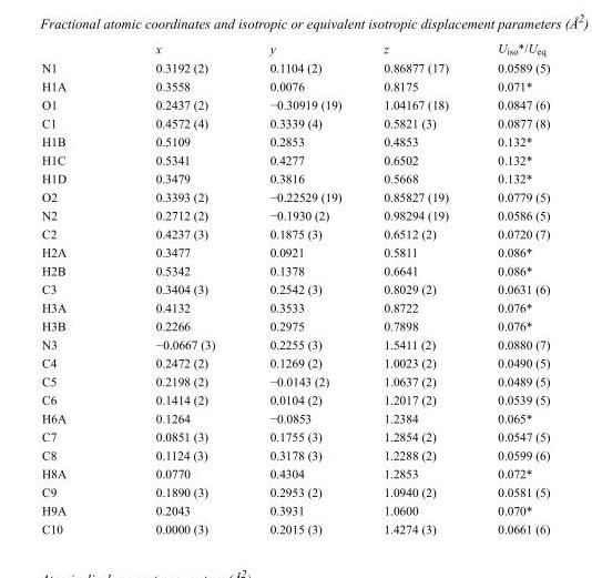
<table><thead><tr><td></td><td>x</td><td>y</td><td>z</td><td>U<sub>iso</sub>*/U<sub>eq</sub></td></tr></thead><tbody><tr><td>N1</td><td>0.3192 (2)</td><td>0.1104 (2)</td><td>0.86877 (17)</td><td>0.0589 (5)</td></tr><tr><td>H1A</td><td>0.3558</td><td>0.0076</td><td>0.8175</td><td>0.071*</td></tr><tr><td>O1</td><td>0.2437 (2)</td><td>−0.30919 (19)</td><td>1.04167 (18)</td><td>0.0847 (6)</td></tr><tr><td>C1</td><td>0.4572 (4)</td><td>0.3339 (4)</td><td>0.5821 (3)</td><td>0.0877 (8)</td></tr><tr><td>H1B</td><td>0.5109</td><td>0.2853</td><td>0.4853</td><td>0.132*</td></tr><tr><td>H1C</td><td>0.5341</td><td>0.4277</td><td>0.6502</td><td>0.132*</td></tr><tr><td>H1D</td><td>0.3479</td><td>0.3816</td><td>0.5668</td><td>0.132*</td></tr><tr><td>O2</td><td>0.3393 (2)</td><td>−0.22529 (19)</td><td>0.85827 (19)</td><td>0.0779 (5)</td></tr><tr><td>N2</td><td>0.2712 (2)</td><td>−0.1930 (2)</td><td>0.98294 (19)</td><td>0.0586 (5)</td></tr><tr><td>C2</td><td>0.4237 (3)</td><td>0.1875 (3)</td><td>0.6512 (2)</td><td>0.0720 (7)</td></tr><tr><td>H2A</td><td>0.3477</td><td>0.0921</td><td>0.5811</td><td>0.086*</td></tr><tr><td>H2B</td><td>0.5342</td><td>0.1378</td><td>0.6641</td><td>0.086*</td></tr><tr><td>C3</td><td>0.3404 (3)</td><td>0.2542 (3)</td><td>0.8029 (2)</td><td>0.0631 (6)</td></tr><tr><td>H3A</td><td>0.4132</td><td>0.3533</td><td>0.8722</td><td>0.076*</td></tr><tr><td>H3B</td><td>0.2266</td><td>0.2975</td><td>0.7898</td><td>0.076*</td></tr><tr><td>N3</td><td>−0.0667 (3)</td><td>0.2255 (3)</td><td>1.5411 (2)</td><td>0.0880 (7)</td></tr><tr><td>C4</td><td>0.2472 (2)</td><td>0.1269 (2)</td><td>1.0023 (2)</td><td>0.0490 (5)</td></tr><tr><td>C5</td><td>0.2198 (2)</td><td>−0.0143 (2)</td><td>1.0637 (2)</td><td>0.0489 (5)</td></tr><tr><td>C6</td><td>0.1414 (2)</td><td>0.0104 (2)</td><td>1.2017 (2)</td><td>0.0539 (5)</td></tr><tr><td>H6A</td><td>0.1264</td><td>−0.0853</td><td>1.2384</td><td>0.065*</td></tr><tr><td>C7</td><td>0.0851 (3)</td><td>0.1755 (3)</td><td>1.2854 (2)</td><td>0.0547 (5)</td></tr><tr><td>C8</td><td>0.1124 (3)</td><td>0.3178 (3)</td><td>1.2288 (2)</td><td>0.0599 (6)</td></tr><tr><td>H8A</td><td>0.0770</td><td>0.4304</td><td>1.2853</td><td>0.072*</td></tr><tr><td>C9</td><td>0.1890 (3)</td><td>0.2953 (2)</td><td>1.0940 (2)</td><td>0.0581 (5)</td></tr><tr><td>H9A</td><td>0.2043</td><td>0.3931</td><td>1.0600</td><td>0.070*</td></tr><tr><td>C10</td><td>0.0000 (3)</td><td>0.2015 (3)</td><td>1.4274 (3)</td><td>0.0661 (6)</td></tr></tbody></table>